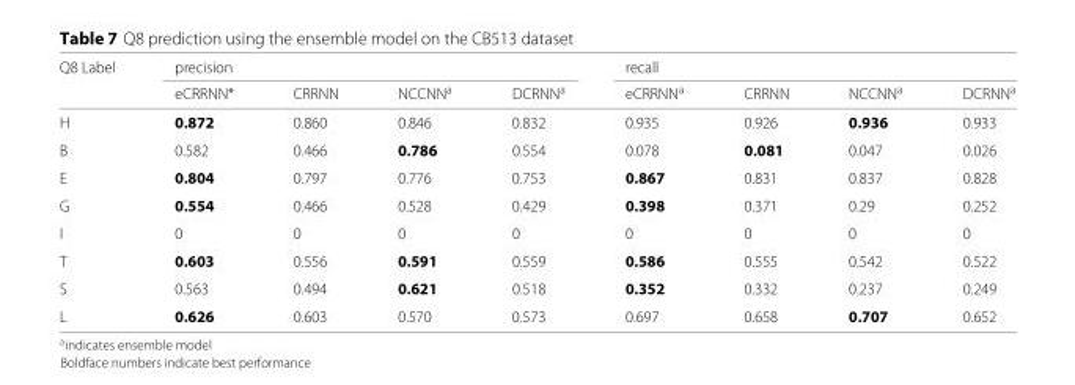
<table><thead><tr><td rowspan="2">Q8 Label</td><td colspan="4">precision</td><td colspan="4">recall</td></tr><tr><td>eCRRNN*</td><td>CRRNN</td><td>NCCNN<sup>a</sup></td><td>DCRNN<sup>a</sup></td><td>eCRRNN<sup>a</sup></td><td>CRRNN</td><td>NCCNN<sup>a</sup></td><td>DCRNN<sup>a</sup></td></tr></thead><tbody><tr><td>H</td><td>0.872</td><td>0.860</td><td>0.846</td><td>0.832</td><td>0.935</td><td>0.926</td><td>0.936</td><td>0.933</td></tr><tr><td>B</td><td>0.582</td><td>0.466</td><td>0.786</td><td>0.554</td><td>0.078</td><td>0.081</td><td>0.047</td><td>0.026</td></tr><tr><td>E</td><td>0.804</td><td>0.797</td><td>0.776</td><td>0.753</td><td>0.867</td><td>0.831</td><td>0.837</td><td>0.828</td></tr><tr><td>G</td><td>0.554</td><td>0.466</td><td>0.528</td><td>0.429</td><td>0.398</td><td>0.371</td><td>0.29</td><td>0.252</td></tr><tr><td>I</td><td>0</td><td>0</td><td>0</td><td>0</td><td>0</td><td>0</td><td>0</td><td>0</td></tr><tr><td>T</td><td>0.603</td><td>0.556</td><td>0.591</td><td>0.559</td><td>0.586</td><td>0.555</td><td>0.542</td><td>0.522</td></tr><tr><td>S</td><td>0.563</td><td>0.494</td><td>0.621</td><td>0.518</td><td>0.352</td><td>0.332</td><td>0.237</td><td>0.249</td></tr><tr><td>L</td><td>0.626</td><td>0.603</td><td>0.570</td><td>0.573</td><td>0.697</td><td>0.658</td><td>0.707</td><td>0.652</td></tr></tbody></table>